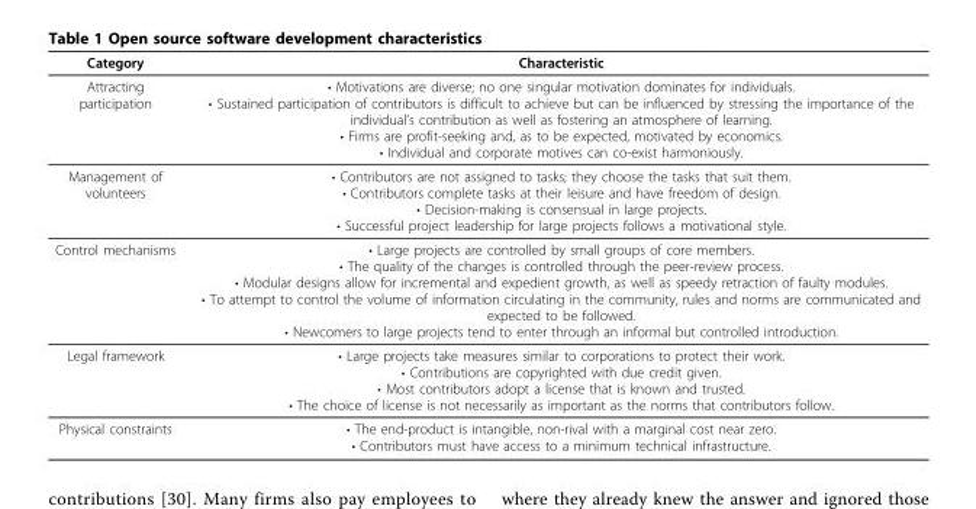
<table><thead><tr><td>Category</td><td>Characteristic</td></tr></thead><tbody><tr><td>Attracting participation</td><td>• Motivations are diverse; no one singular motivation dominates for individuals. • Sustained participation of contributors is difficult to achieve but can be influenced by stressing the importance of the individual’s contribution as well as fostering an atmosphere of learning. • Firms are profit-seeking and, as to be expected, motivated by economics. • Individual and corporate motives can co-exist harmoniously.</td></tr><tr><td>Management of volunteers</td><td>• Contributors are not assigned to tasks; they choose the tasks that suit them. • Contributors complete tasks at their leisure and have freedom of design. • Decision-making is consensual in large projects. • Successful project leadership for large projects follows a motivational style.</td></tr><tr><td>Control mechanisms</td><td>• Large projects are controlled by small groups of core members. • The quality of the changes is controlled through the peer-review process. • Modular designs allow for incremental and expedient growth, as well as speedy retraction of faulty modules. • To attempt to control the volume of information circulating in the community, rules and norms are communicated and expected to be followed. • Newcomers to large projects tend to enter through an informal but controlled introduction.</td></tr><tr><td>Legal framework</td><td>• Large projects take measures similar to corporations to protect their work. • Contributions are copyrighted with due credit given. • Most contributors adopt a license that is known and trusted. • The choice of license is not necessarily as important as the norms that contributors follow.</td></tr><tr><td>Physical constraints</td><td>• The end-product is intangible, non-rival with a marginal cost near zero. • Contributors must have access to a minimum technical infrastructure.</td></tr></tbody></table>